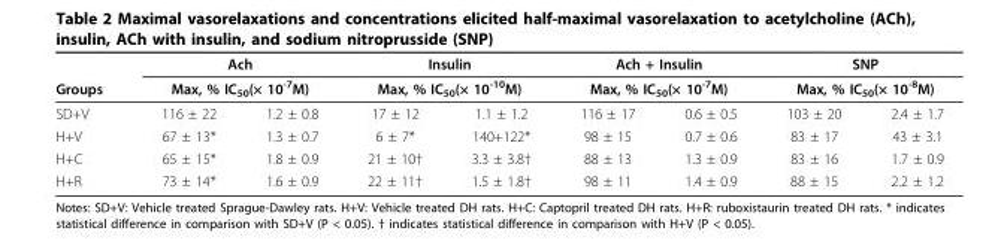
<table><thead><tr><td rowspan="3">Groups SD+V</td><td rowspan="2" colspan="2">Ach Max, % IC<sub>50</sub>(× 10<sup>-7</sup>M)</td><td rowspan="2" colspan="2">Insulin Max, % IC<sub>50</sub>(× 10<sup>-10</sup>M)</td><td rowspan="2" colspan="2">Ach + Insulin Max, % IC<sub>50</sub>(× 10<sup>-7</sup>M)</td><td rowspan="2" colspan="2">SNP Max, % IC<sub>50</sub>(× 10<sup>-8</sup>M)</td></tr><tr></tr><tr><td>116 ± 22</td><td>1.2 ± 0.8</td><td>17 ± 12</td><td>1.1 ± 1.2</td><td>116 ± 17</td><td>0.6 ± 0.5</td><td>103 ± 20</td><td>2.4 ± 1.7</td></tr></thead><tbody><tr><td>H+V</td><td>67 ± 13*</td><td>1.3 ± 0.7</td><td>6 ± 7*</td><td>140+122*</td><td>98 ± 15</td><td>0.7 ± 0.6</td><td>83 ± 17</td><td>43 ± 3.1</td></tr><tr><td>H+C</td><td>65 ± 15*</td><td>1.8 ± 0.9</td><td>21 ± 10†</td><td>3.3 ± 3.8†</td><td>88 ± 13</td><td>1.3 ± 0.9</td><td>83 ± 16</td><td>1.7 ± 0.9</td></tr><tr><td>H+R</td><td>73 ± 14*</td><td>1.6 ± 0.9</td><td>22 ± 11†</td><td>1.5 ± 1.8†</td><td>98 ± 11</td><td>1.4 ± 0.9</td><td>88 ± 15</td><td>2.2 ± 1.2</td></tr></tbody></table>